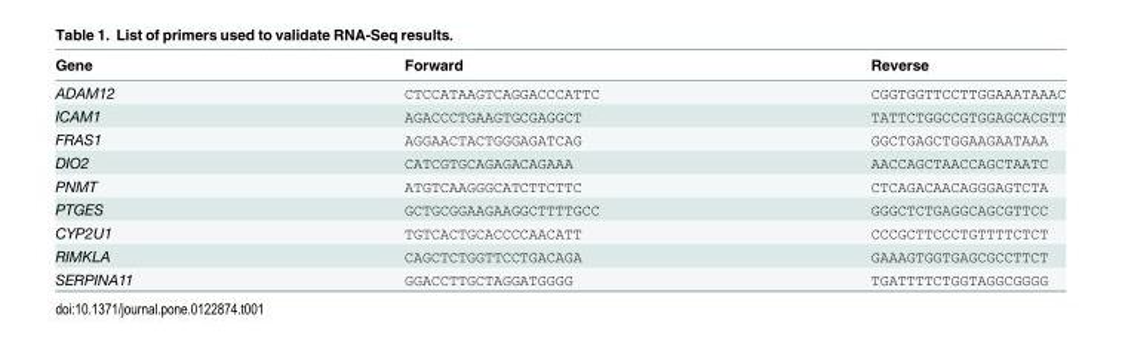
<table><thead><tr><td>Gene</td><td>Forward</td><td>Reverse</td></tr></thead><tbody><tr><td>ADAM12</td><td>CTCCATAAGTCAGGACCCATTC</td><td>CGGTGGTTCCTTGGAAATAAAC</td></tr><tr><td>ICAM1</td><td>AGACCCTGAAGTGCGAGGCT</td><td>TATTCTGGCCGTGGAGCACGTT</td></tr><tr><td>FRAS1</td><td>AGGAACTACTGGGAGATCAG</td><td>GGCTGAGCTGGAAGAATAAA</td></tr><tr><td>DIO2</td><td>CATCGTGCAGAGACAGAAA</td><td>AACCAGCTAACCAGCTAATC</td></tr><tr><td>PNMT</td><td>ATGTCAAGGGCATCTTCTTC</td><td>CTCAGACAACAGGGAGTCTA</td></tr><tr><td>PTGES</td><td>GCTGCGGAAGAAGGCTTTTGCC</td><td>GGGCTCTGAGGCAGCGTTCC</td></tr><tr><td>CYP2U1</td><td>TGTCACTGCACCCCAACATT</td><td>CCCGCTTCCCTGTTTTCTCT</td></tr><tr><td>RIMKLA</td><td>CAGCTCTGGTTCCTGACAGA</td><td>GAAAGTGGTGAGCGCCTTCT</td></tr><tr><td>SERPINA11</td><td>GGACCTTGCTAGGATGGGG</td><td>TGATTTTCTGGTAGGCGGGG</td></tr></tbody></table>